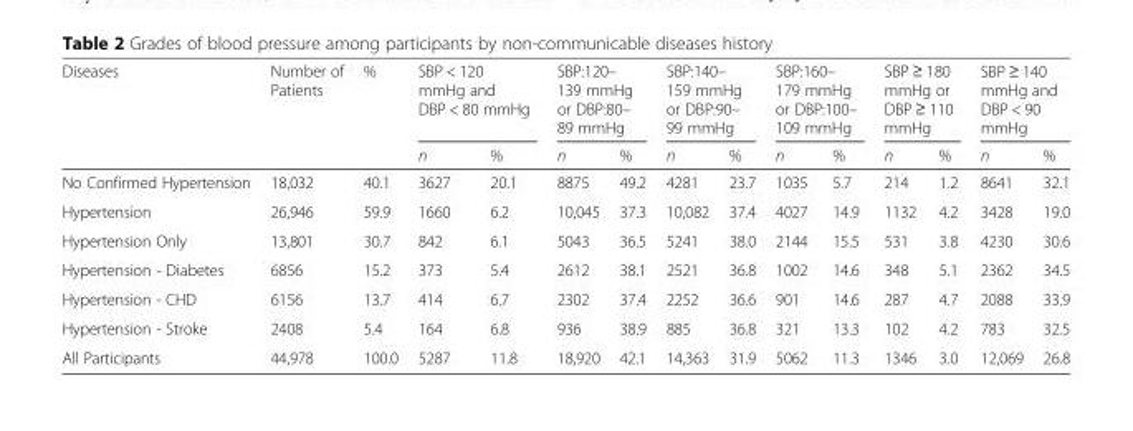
<table><thead><tr><td rowspan="2">Diseases</td><td rowspan="2">Number of Patients</td><td rowspan="2">%</td><td colspan="2">SBP &lt; 120 mmHg and DBP &lt; 80 mmHg</td><td colspan="2">SBP:120– 139 mmHg or DBP:80– 89 mmHg</td><td colspan="2">SBP:140– 159 mmHg or DBP:90– 99 mmHg</td><td colspan="2">SBP:160– 179 mmHg or DBP:100– 109 mmHg</td><td colspan="2">SBP ≥ 180 mmHg or DBP ≥ 110 mmHg</td><td colspan="2">SBP ≥ 140 mmHg and DBP &lt; 90 mmHg</td></tr><tr><td>n</td><td>%</td><td>n</td><td>%</td><td>n</td><td>%</td><td>n</td><td>%</td><td>n</td><td>%</td><td>n</td><td>%</td></tr></thead><tbody><tr><td>No Confirmed Hypertension</td><td>18,032</td><td>40.1</td><td>3627</td><td>20.1</td><td>8875</td><td>49.2</td><td>4281</td><td>23.7</td><td>1035</td><td>5.7</td><td>214</td><td>1.2</td><td>8641</td><td>32.1</td></tr><tr><td>Hypertension</td><td>26,946</td><td>59.9</td><td>1660</td><td>6.2</td><td>10,045</td><td>37.3</td><td>10,082</td><td>37.4</td><td>4027</td><td>14.9</td><td>1132</td><td>4.2</td><td>3428</td><td>19.0</td></tr><tr><td>Hypertension Only</td><td>13,801</td><td>30.7</td><td>842</td><td>6.1</td><td>5043</td><td>36.5</td><td>5241</td><td>38.0</td><td>2144</td><td>15.5</td><td>531</td><td>3.8</td><td>4230</td><td>30.6</td></tr><tr><td>Hypertension - Diabetes</td><td>6856</td><td>15.2</td><td>373</td><td>5.4</td><td>2612</td><td>38.1</td><td>2521</td><td>36.8</td><td>1002</td><td>14.6</td><td>348</td><td>5.1</td><td>2362</td><td>34.5</td></tr><tr><td>Hypertension - CHD</td><td>6156</td><td>13.7</td><td>414</td><td>6.7</td><td>2302</td><td>37.4</td><td>2252</td><td>36.6</td><td>901</td><td>14.6</td><td>287</td><td>4.7</td><td>2088</td><td>33.9</td></tr><tr><td>Hypertension - Stroke</td><td>2408</td><td>5.4</td><td>164</td><td>6.8</td><td>936</td><td>38.9</td><td>885</td><td>36.8</td><td>321</td><td>13.3</td><td>102</td><td>4.2</td><td>783</td><td>32.5</td></tr><tr><td>All Participants</td><td>44,978</td><td>100.0</td><td>5287</td><td>11.8</td><td>18,920</td><td>42.1</td><td>14,363</td><td>31.9</td><td>5062</td><td>11.3</td><td>1346</td><td>3.0</td><td>12,069</td><td>26.8</td></tr></tbody></table>